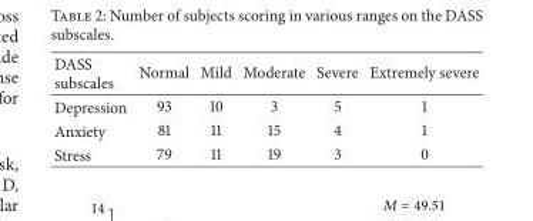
<table><thead><tr><td>DASS subscales</td><td>Normal</td><td>Mild</td><td>Moderate</td><td>Severe</td><td>Extremely severe</td></tr></thead><tbody><tr><td>Depression</td><td>93</td><td>10</td><td>3</td><td>5</td><td>1</td></tr><tr><td>Anxiety</td><td>81</td><td>11</td><td>15</td><td>4</td><td>1</td></tr><tr><td>Stress</td><td>79</td><td>11</td><td>19</td><td>3</td><td>0</td></tr></tbody></table>